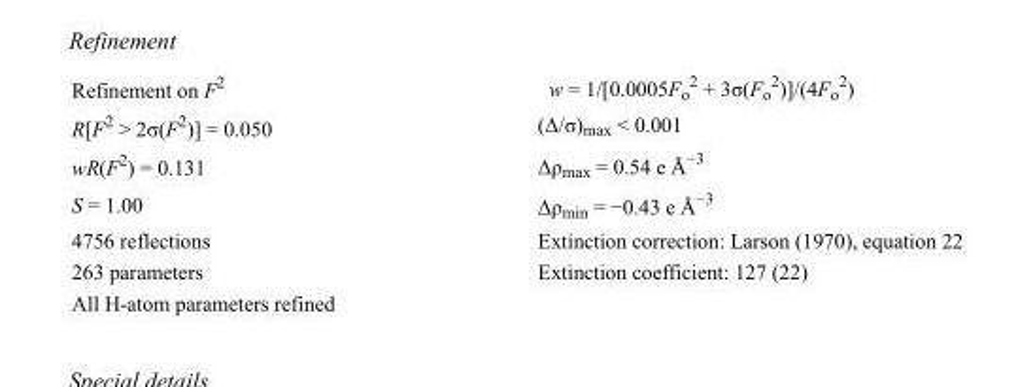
<table><tbody><tr><td>Refinement on F<sup>2</sup></td><td>w = 1/[0.0005F<sub>o</sub> <sup>2</sup> + 3σ(F<sub>o</sub> <sup>2</sup>)]/(4F<sub>o</sub> <sup>2</sup>)</td></tr><tr><td>R[F<sup>2</sup> &gt; 2σ(F<sup>2</sup>)] = 0.050</td><td>(Δ/σ)<sub>max</sub> &lt; 0.001</td></tr><tr><td>wR(F<sup>2</sup>) = 0.131</td><td>Δρ<sub>max</sub> = 0.54 e Å<sup>−3</sup></td></tr><tr><td>S = 1.00</td><td>Δρ<sub>min</sub> = −0.43 e Å<sup>−3</sup></td></tr><tr><td>4756 reflections</td><td>Extinction correction: Larson (1970), equation 22</td></tr><tr><td>263 parameters</td><td>Extinction coefficient: 127 (22)</td></tr><tr><td>All H-atom parameters refined</td><td></td></tr></tbody></table>